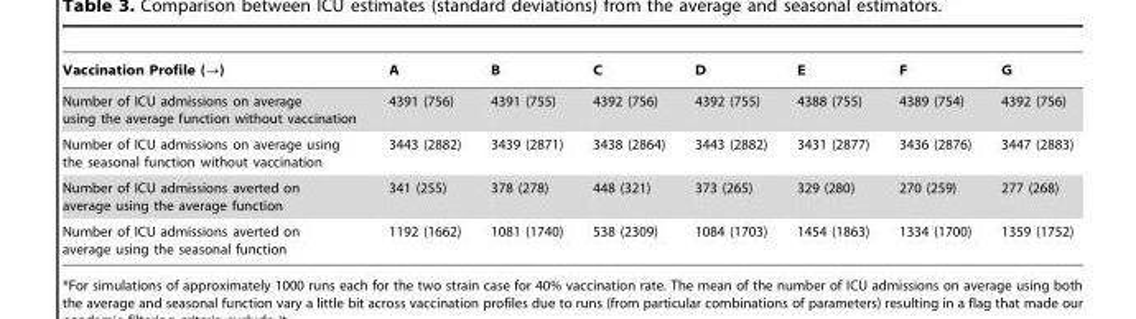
<table><thead><tr><td>Vaccination Profile (?)</td><td>A</td><td>B</td><td>C</td><td>D</td><td>E</td><td>F</td><td>G</td></tr></thead><tbody><tr><td>Number of ICU admissions on average using the average function without vaccination</td><td>4391 (756)</td><td>4391 (755)</td><td>4392 (756)</td><td>4392 (755)</td><td>4388 (755)</td><td>4389 (754)</td><td>4392 (756)</td></tr><tr><td>Number of ICU admissions on average using the seasonal function without vaccination</td><td>3443 (2882)</td><td>3439 (2871)</td><td>3438 (2864)</td><td>3443 (2882)</td><td>3431 (2877)</td><td>3436 (2876)</td><td>3447 (2883)</td></tr><tr><td>Number of ICU admissions averted on average using the average function</td><td>341 (255)</td><td>378 (278)</td><td>448 (321)</td><td>373 (265)</td><td>329 (280)</td><td>270 (259)</td><td>277 (268)</td></tr><tr><td>Number of ICU admissions averted on average using the seasonal function</td><td>1192 (1662)</td><td>1081 (1740)</td><td>538 (2309)</td><td>1084 (1703)</td><td>1454 (1863)</td><td>1334 (1700)</td><td>1359 (1752)</td></tr></tbody></table>